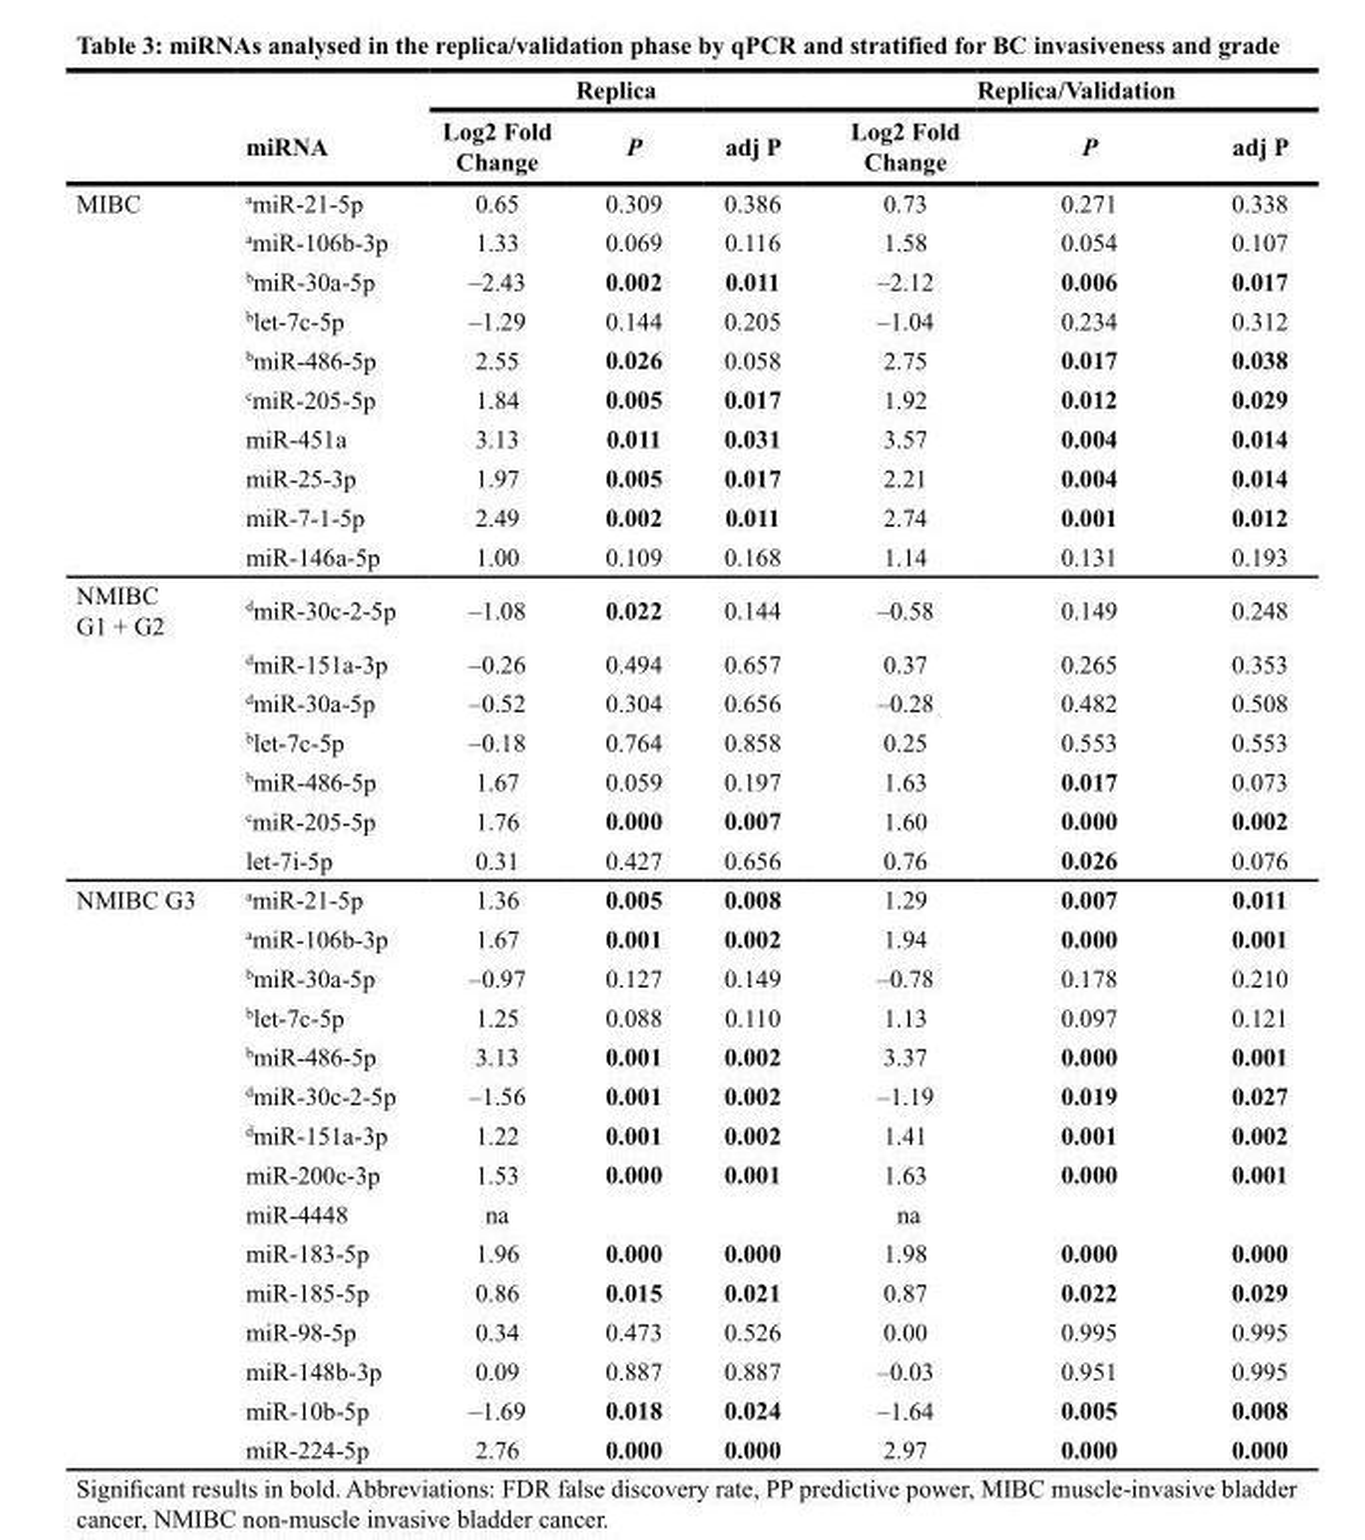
<table><thead><tr><td rowspan="2"></td><td rowspan="2">miRNA</td><td colspan="3">Replica</td><td colspan="3">Replica/Validation</td></tr><tr><td>Log2 Fold Change</td><td>P</td><td>adj P</td><td>Log2 Fold Change</td><td>P</td><td>adj P</td></tr></thead><tbody><tr><td rowspan="10">MIBC</td><td><sup>a</sup>miR-21-5p</td><td>0.65</td><td>0.309</td><td>0.386</td><td>0.73</td><td>0.271</td><td>0.338</td></tr><tr><td><sup>a</sup>miR-106b-3p</td><td>1.33</td><td>0.069</td><td>0.116</td><td>1.58</td><td>0.054</td><td>0.107</td></tr><tr><td><sup>b</sup>miR-30a-5p</td><td>–2.43</td><td>0.002</td><td>0.011</td><td>–2.12</td><td>0.006</td><td>0.017</td></tr><tr><td><sup>b</sup>let-7c-5p</td><td>–1.29</td><td>0.144</td><td>0.205</td><td>–1.04</td><td>0.234</td><td>0.312</td></tr><tr><td><sup>b</sup>miR-486-5p</td><td>2.55</td><td>0.026</td><td>0.058</td><td>2.75</td><td>0.017</td><td>0.038</td></tr><tr><td><sup>c</sup>miR-205-5p</td><td>1.84</td><td>0.005</td><td>0.017</td><td>1.92</td><td>0.012</td><td>0.029</td></tr><tr><td>miR-451a</td><td>3.13</td><td>0.011</td><td>0.031</td><td>3.57</td><td>0.004</td><td>0.014</td></tr><tr><td>miR-25-3p</td><td>1.97</td><td>0.005</td><td>0.017</td><td>2.21</td><td>0.004</td><td>0.014</td></tr><tr><td>miR-7-1-5p</td><td>2.49</td><td>0.002</td><td>0.011</td><td>2.74</td><td>0.001</td><td>0.012</td></tr><tr><td>miR-146a-5p</td><td>1.00</td><td>0.109</td><td>0.168</td><td>1.14</td><td>0.131</td><td>0.193</td></tr><tr><td rowspan="7">NMIBC G1 + G2</td><td><sup>d</sup>miR-30c-2-5p</td><td>–1.08</td><td>0.022</td><td>0.144</td><td>–0.58</td><td>0.149</td><td>0.248</td></tr><tr><td><sup>d</sup>miR-151a-3p</td><td>–0.26</td><td>0.494</td><td>0.657</td><td>0.37</td><td>0.265</td><td>0.353</td></tr><tr><td><sup>d</sup>miR-30a-5p</td><td>–0.52</td><td>0.304</td><td>0.656</td><td>–0.28</td><td>0.482</td><td>0.508</td></tr><tr><td><sup>b</sup>let-7c-5p</td><td>–0.18</td><td>0.764</td><td>0.858</td><td>0.25</td><td>0.553</td><td>0.553</td></tr><tr><td><sup>b</sup>miR-486-5p</td><td>1.67</td><td>0.059</td><td>0.197</td><td>1.63</td><td>0.017</td><td>0.073</td></tr><tr><td><sup>c</sup>miR-205-5p</td><td>1.76</td><td>0.000</td><td>0.007</td><td>1.60</td><td>0.000</td><td>0.002</td></tr><tr><td>let-7i-5p</td><td>0.31</td><td>0.427</td><td>0.656</td><td>0.76</td><td>0.026</td><td>0.076</td></tr><tr><td rowspan="15">NMIBC G3</td><td><sup>a</sup>miR-21-5p</td><td>1.36</td><td>0.005</td><td>0.008</td><td>1.29</td><td>0.007</td><td>0.011</td></tr><tr><td><sup>a</sup>miR-106b-3p</td><td>1.67</td><td>0.001</td><td>0.002</td><td>1.94</td><td>0.000</td><td>0.001</td></tr><tr><td><sup>b</sup>miR-30a-5p</td><td>–0.97</td><td>0.127</td><td>0.149</td><td>–0.78</td><td>0.178</td><td>0.210</td></tr><tr><td><sup>b</sup>let-7c-5p</td><td>1.25</td><td>0.088</td><td>0.110</td><td>1.13</td><td>0.097</td><td>0.121</td></tr><tr><td><sup>b</sup>miR-486-5p</td><td>3.13</td><td>0.001</td><td>0.002</td><td>3.37</td><td>0.000</td><td>0.001</td></tr><tr><td><sup>d</sup>miR-30c-2-5p</td><td>–1.56</td><td>0.001</td><td>0.002</td><td>–1.19</td><td>0.019</td><td>0.027</td></tr><tr><td><sup>d</sup>miR-151a-3p</td><td>1.22</td><td>0.001</td><td>0.002</td><td>1.41</td><td>0.001</td><td>0.002</td></tr><tr><td>miR-200c-3p</td><td>1.53</td><td>0.000</td><td>0.001</td><td>1.63</td><td>0.000</td><td>0.001</td></tr><tr><td>miR-4448</td><td>na</td><td></td><td></td><td>na</td><td></td><td></td></tr><tr><td>miR-183-5p</td><td>1.96</td><td>0.000</td><td>0.000</td><td>1.98</td><td>0.000</td><td>0.000</td></tr><tr><td>miR-185-5p</td><td>0.86</td><td>0.015</td><td>0.021</td><td>0.87</td><td>0.022</td><td>0.029</td></tr><tr><td>miR-98-5p</td><td>0.34</td><td>0.473</td><td>0.526</td><td>0.00</td><td>0.995</td><td>0.995</td></tr><tr><td>miR-148b-3p</td><td>0.09</td><td>0.887</td><td>0.887</td><td>–0.03</td><td>0.951</td><td>0.995</td></tr><tr><td>miR-10b-5p</td><td>–1.69</td><td>0.018</td><td>0.024</td><td>–1.64</td><td>0.005</td><td>0.008</td></tr><tr><td>miR-224-5p</td><td>2.76</td><td>0.000</td><td>0.000</td><td>2.97</td><td>0.000</td><td>0.000</td></tr></tbody></table>